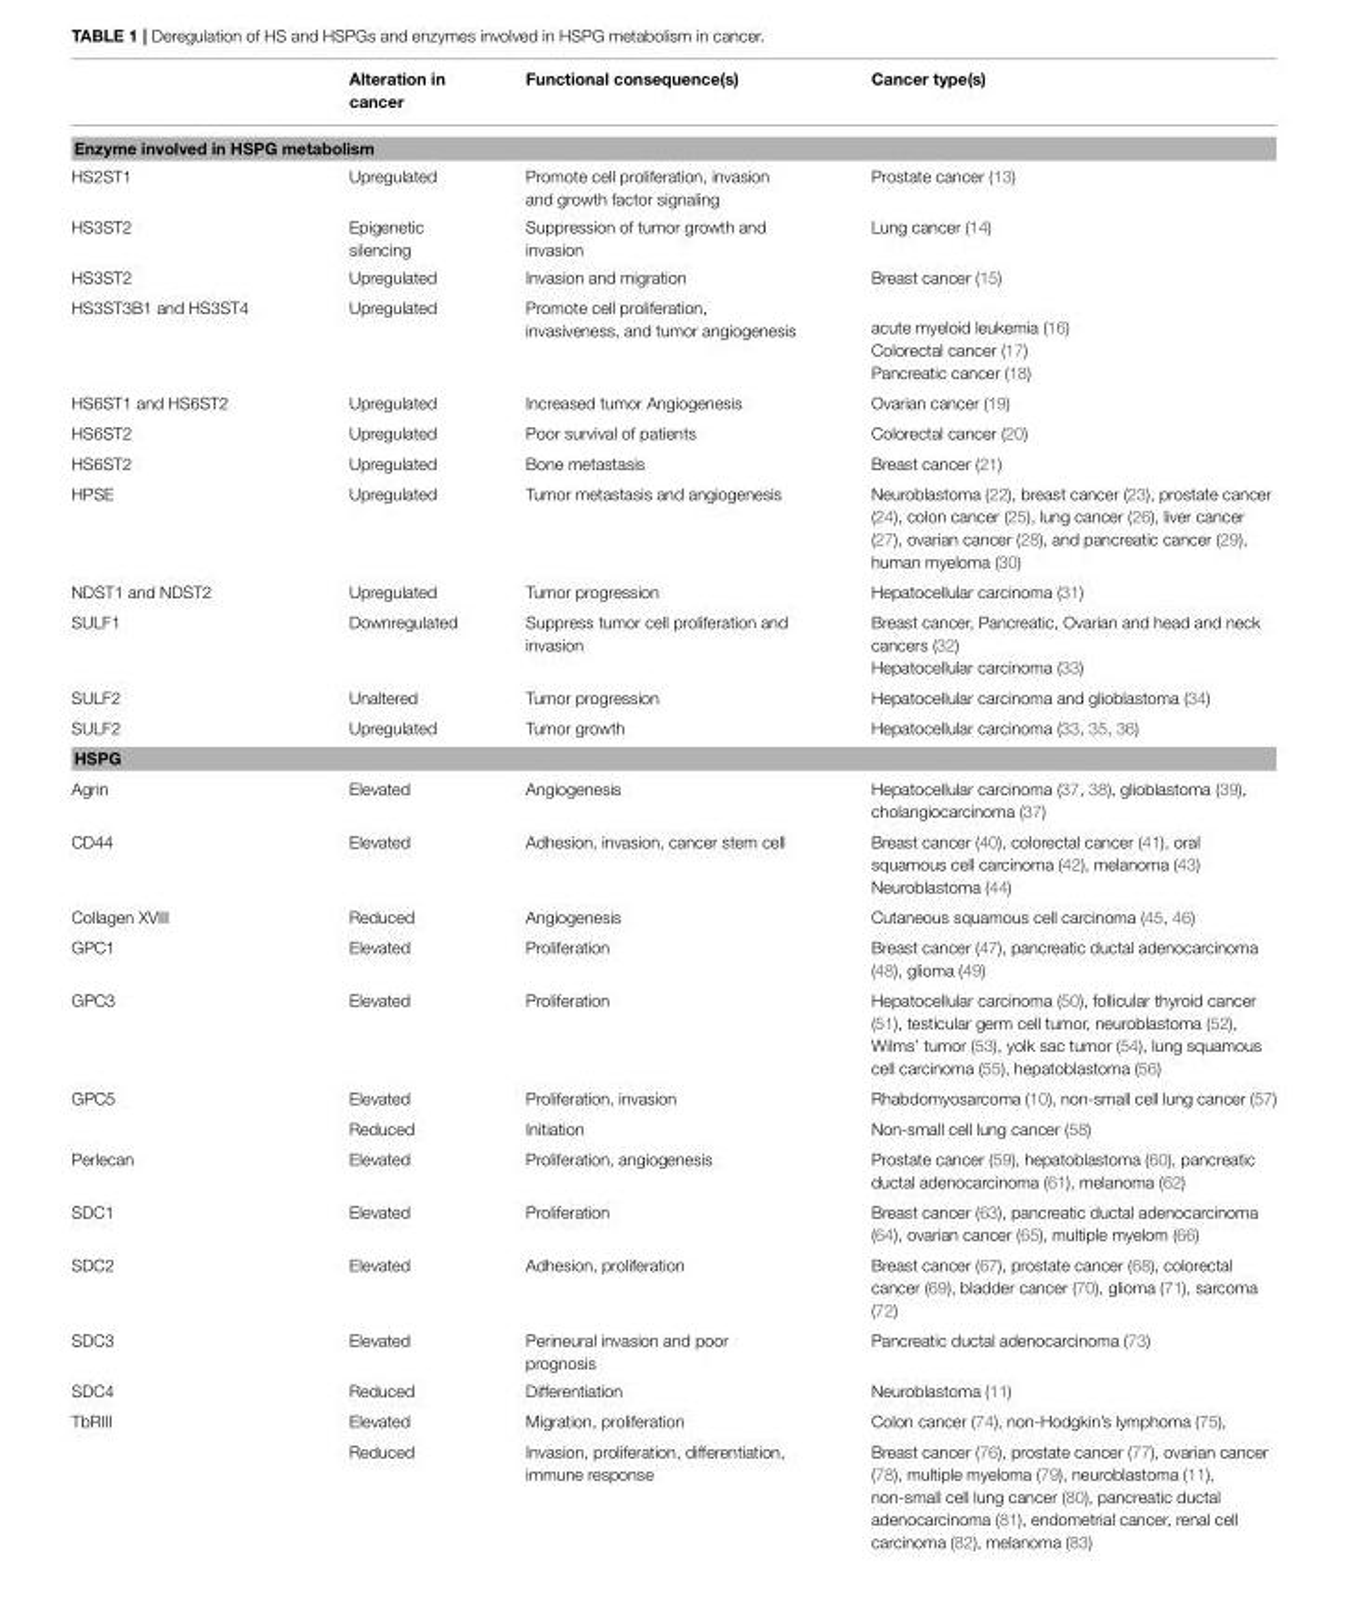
<table><thead><tr><td></td><td>Alteration in cancer</td><td>Functional consequence(s)</td><td>Cancer type(s)</td></tr></thead><tbody><tr><td colspan="4">Enzyme involved in HSPG metabolism</td></tr><tr><td>HS2ST1</td><td>Upregulated</td><td>Promote cell proliferation, invasion and growth factor signaling</td><td>Prostate cancer (13)</td></tr><tr><td>HS3ST2</td><td>Epigenetic silencing</td><td>Suppression of tumor growth and invasion</td><td>Lung cancer (14)</td></tr><tr><td>HS3ST2</td><td>Upregulated</td><td>Invasion and migration</td><td>Breast cancer (15)</td></tr><tr><td>HS3ST3B1 and HS3ST4</td><td>Upregulated</td><td>Promote cell proliferation, invasiveness, and tumor angiogenesis</td><td>acute myeloid leukemia (16) Colorectal cancer (17) Pancreatic cancer (18)</td></tr><tr><td>HS6ST1 and HS6ST2</td><td>Upregulated</td><td>Increased tumor Angiogenesis</td><td>Ovarian cancer (19)</td></tr><tr><td>HS6ST2</td><td>Upregulated</td><td>Poor survival of patients</td><td>Colorectal cancer (20)</td></tr><tr><td>HS6ST2</td><td>Upregulated</td><td>Bone metastasis</td><td>Breast cancer (21)</td></tr><tr><td>HPSE</td><td>Upregulated</td><td>Tumor metastasis and angiogenesis</td><td>Neuroblastoma (22), breast cancer (23), prostate cancer (24), colon cancer (25), lung cancer (26), liver cancer (27), ovarian cancer (28), and pancreatic cancer (29), human myeloma (30)</td></tr><tr><td>NDST1 and NDST2</td><td>Upregulated</td><td>Tumor progression</td><td>Hepatocellular carcinoma (31)</td></tr><tr><td>SULF1</td><td>Downregulated</td><td>Suppress tumor cell proliferation and invasion</td><td>Breast cancer, Pancreatic, Ovarian and head and neck cancers (32) Hepatocellular carcinoma (33)</td></tr><tr><td>SULF2</td><td>Unaltered</td><td>Tumor progression</td><td>Hepatocellular carcinoma and glioblastoma (34)</td></tr><tr><td>SULF2</td><td>Upregulated</td><td>Tumor growth</td><td>Hepatocellular carcinoma (33, 35, 36)</td></tr><tr><td colspan="4">HSPG</td></tr><tr><td>Agrin</td><td>Elevated</td><td>Angiogenesis</td><td>Hepatocellular carcinoma (37, 38), glioblastoma (39), cholangiocarcinoma (37)</td></tr><tr><td>CD44</td><td>Elevated</td><td>Adhesion, invasion, cancer stem cell</td><td>Breast cancer (40), colorectal cancer (41), oral squamous cell carcinoma (42), melanoma (43) Neuroblastoma (44)</td></tr><tr><td>Collagen XVIII</td><td>Reduced</td><td>Angiogenesis</td><td>Cutaneous squamous cell carcinoma (45, 46)</td></tr><tr><td>GPC1</td><td>Elevated</td><td>Proliferation</td><td>Breast cancer (47), pancreatic ductal adenocarcinoma (48), glioma (49)</td></tr><tr><td>GPC3</td><td>Elevated</td><td>Proliferation</td><td>Hepatocellular carcinoma (50), follicular thyroid cancer (51), testicular germ cell tumor, neuroblastoma (52), Wilms’ tumor (53), yolk sac tumor (54), lung squamous cell carcinoma (55), hepatoblastoma (56)</td></tr><tr><td rowspan="2">GPC5</td><td>Elevated</td><td>Proliferation, invasion</td><td>Rhabdomyosarcoma (10), non-small cell lung cancer (57)</td></tr><tr><td>Reduced</td><td>Initiation</td><td>Non-small cell lung cancer (58)</td></tr><tr><td>Perlecan</td><td>Elevated</td><td>Proliferation, angiogenesis</td><td>Prostate cancer (59), hepatoblastoma (60), pancreatic ductal adenocarcinoma (61), melanoma (62)</td></tr><tr><td>SDC1</td><td>Elevated</td><td>Proliferation</td><td>Breast cancer (63), pancreatic ductal adenocarcinoma (64), ovarian cancer (65), multiple myelom (66)</td></tr><tr><td>SDC2</td><td>Elevated</td><td>Adhesion, proliferation</td><td>Breast cancer (67), prostate cancer (68), colorectal cancer (69), bladder cancer (70), glioma (71), sarcoma (72)</td></tr><tr><td>SDC3</td><td>Elevated</td><td>Perineural invasion and poor prognosis</td><td>Pancreatic ductal adenocarcinoma (73)</td></tr><tr><td>SDC4</td><td>Reduced</td><td>Differentiation</td><td>Neuroblastoma (11)</td></tr><tr><td rowspan="2">TbRIII</td><td>Elevated</td><td>Migration, proliferation</td><td>Colon cancer (74), non-Hodgkin’s lymphoma (75),</td></tr><tr><td>Reduced</td><td>Invasion, proliferation, differentiation, immune response</td><td>Breast cancer (76), prostate cancer (77), ovarian cancer (78), multiple myeloma (79), neuroblastoma (11), non-small cell lung cancer (80), pancreatic ductal adenocarcinoma (81), endometrial cancer, renal cell carcinoma (82), melanoma (83)</td></tr></tbody></table>